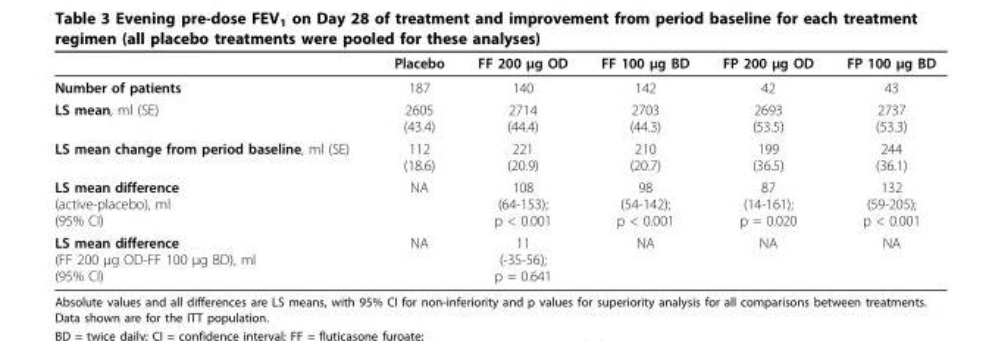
<table><thead><tr><td></td><td>Placebo</td><td>FF 200 μg OD</td><td>FF 100 μg BD</td><td>FP 200 μg OD</td><td>FP 100 μg BD</td></tr></thead><tbody><tr><td>Number of patients</td><td>187</td><td>140</td><td>142</td><td>42</td><td>43</td></tr><tr><td>LS mean, ml (SE)</td><td>2605 (43.4)</td><td>2714 (44.4)</td><td>2703 (44.3)</td><td>2693 (53.5)</td><td>2737 (53.3)</td></tr><tr><td>LS mean change from period baseline, ml (SE)</td><td>112 (18.6)</td><td>221 (20.9)</td><td>210 (20.7)</td><td>199 (36.5)</td><td>244 (36.1)</td></tr><tr><td>LS mean difference (active-placebo), ml (95% CI)</td><td>NA</td><td>108 (64-153); p &lt; 0.001</td><td>98 (54-142); p &lt; 0.001</td><td>87 (14-161); p = 0.020</td><td>132 (59-205); p &lt; 0.001</td></tr><tr><td>LS mean difference (FF 200 μg OD-FF 100 μg BD), ml (95% CI)</td><td>NA</td><td>11 (-35-56); p = 0.641</td><td>NA</td><td>NA</td><td>NA</td></tr></tbody></table>